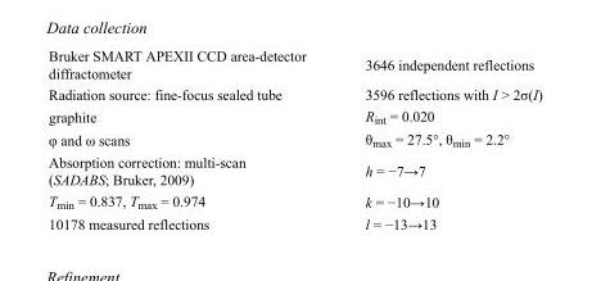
<table><tbody><tr><td>Bruker SMART APEXII CCD area-detector diffractometer</td><td>3646 independent reflections</td></tr><tr><td>Radiation source: fine-focus sealed tube</td><td>3596 reflections with I &gt; 2σ(I)</td></tr><tr><td>graphite</td><td>R<sub>int</sub> = 0.020</td></tr><tr><td>φ and ω scans</td><td>θ<sub>max</sub> = 27.5°, θ<sub>min</sub> = 2.2°</td></tr><tr><td>Absorption correction: multi-scan (SADABS; Bruker, 2009)</td><td>h = −7→7</td></tr><tr><td>T<sub>min</sub> = 0.837, T<sub>max</sub> = 0.974</td><td>k = −10→10</td></tr><tr><td>10178 measured reflections</td><td>l = −13→13</td></tr></tbody></table>